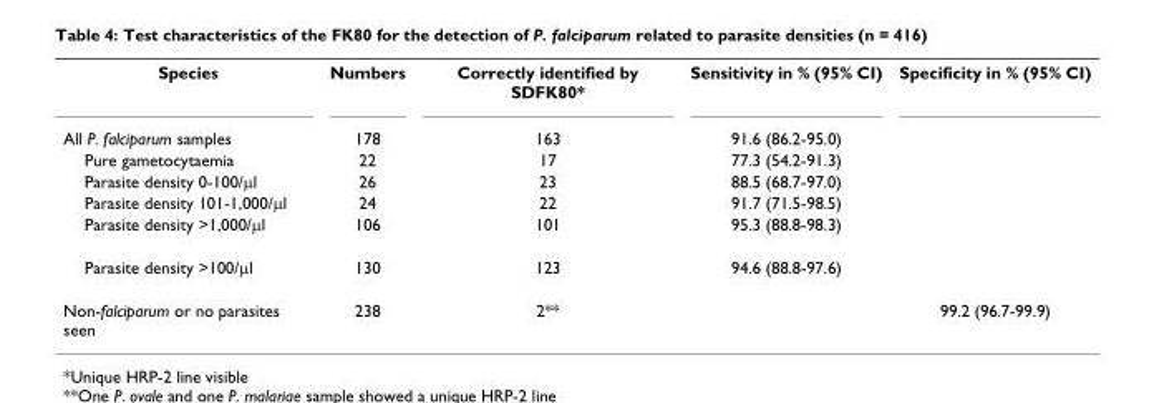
<table><tbody><tr><td>Species</td><td>Numbers</td><td>Correctly identified by SDFK80*</td><td>Sensitivity in % (95% CI)</td><td>Specificity in % (95% CI)</td></tr><tr><td>All P. falciparum samples</td><td>178</td><td>163</td><td>91.6 (86.2-95.0)</td><td></td></tr><tr><td>Pure gametocytaemia</td><td>22</td><td>17</td><td>77.3 (54.2-91.3)</td><td></td></tr><tr><td>Parasite density 0-100/μl</td><td>26</td><td>23</td><td>88.5 (68.7-97.0)</td><td></td></tr><tr><td>Parasite density 101-1,000/μl</td><td>24</td><td>22</td><td>91.7 (71.5-98.5)</td><td></td></tr><tr><td>Parasite density &gt;1,000/μl</td><td>106</td><td>101</td><td>95.3 (88.8-98.3)</td><td></td></tr><tr><td>Parasite density &gt;100/μl</td><td>130</td><td>123</td><td>94.6 (88.8-97.6)</td><td></td></tr><tr><td>Non-falciparum or no parasites seen</td><td>238</td><td>2**</td><td></td><td>99.2 (96.7-99.9)</td></tr></tbody></table>